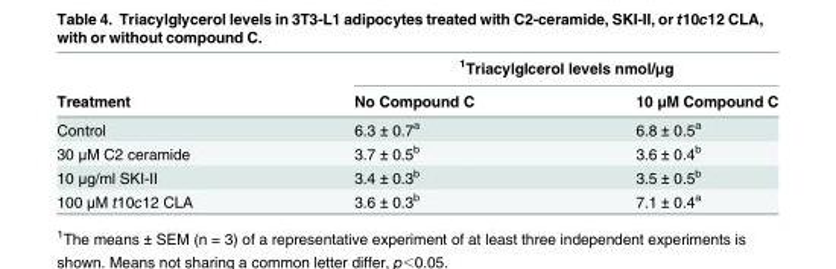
<table><thead><tr><td rowspan="2">Treatment</td><td colspan="2"><sup>1</sup>Triacylglcerol levels nmol/μg</td></tr><tr><td>No Compound C</td><td>10 μM Compound C</td></tr></thead><tbody><tr><td>Control</td><td>6.3 ± 0.7<sup>a</sup></td><td>6.8 ± 0.5<sup>a</sup></td></tr><tr><td>30 μM C2 ceramide</td><td>3.7 ± 0.5<sup>b</sup></td><td>3.6 ± 0.4<sup>b</sup></td></tr><tr><td>10 μg/ml SKI-II</td><td>3.4 ± 0.3<sup>b</sup></td><td>3.5 ± 0.5<sup>b</sup></td></tr><tr><td>100 μM t10c12 CLA</td><td>3.6 ± 0.3<sup>b</sup></td><td>7.1 ± 0.4<sup>a</sup></td></tr></tbody></table>